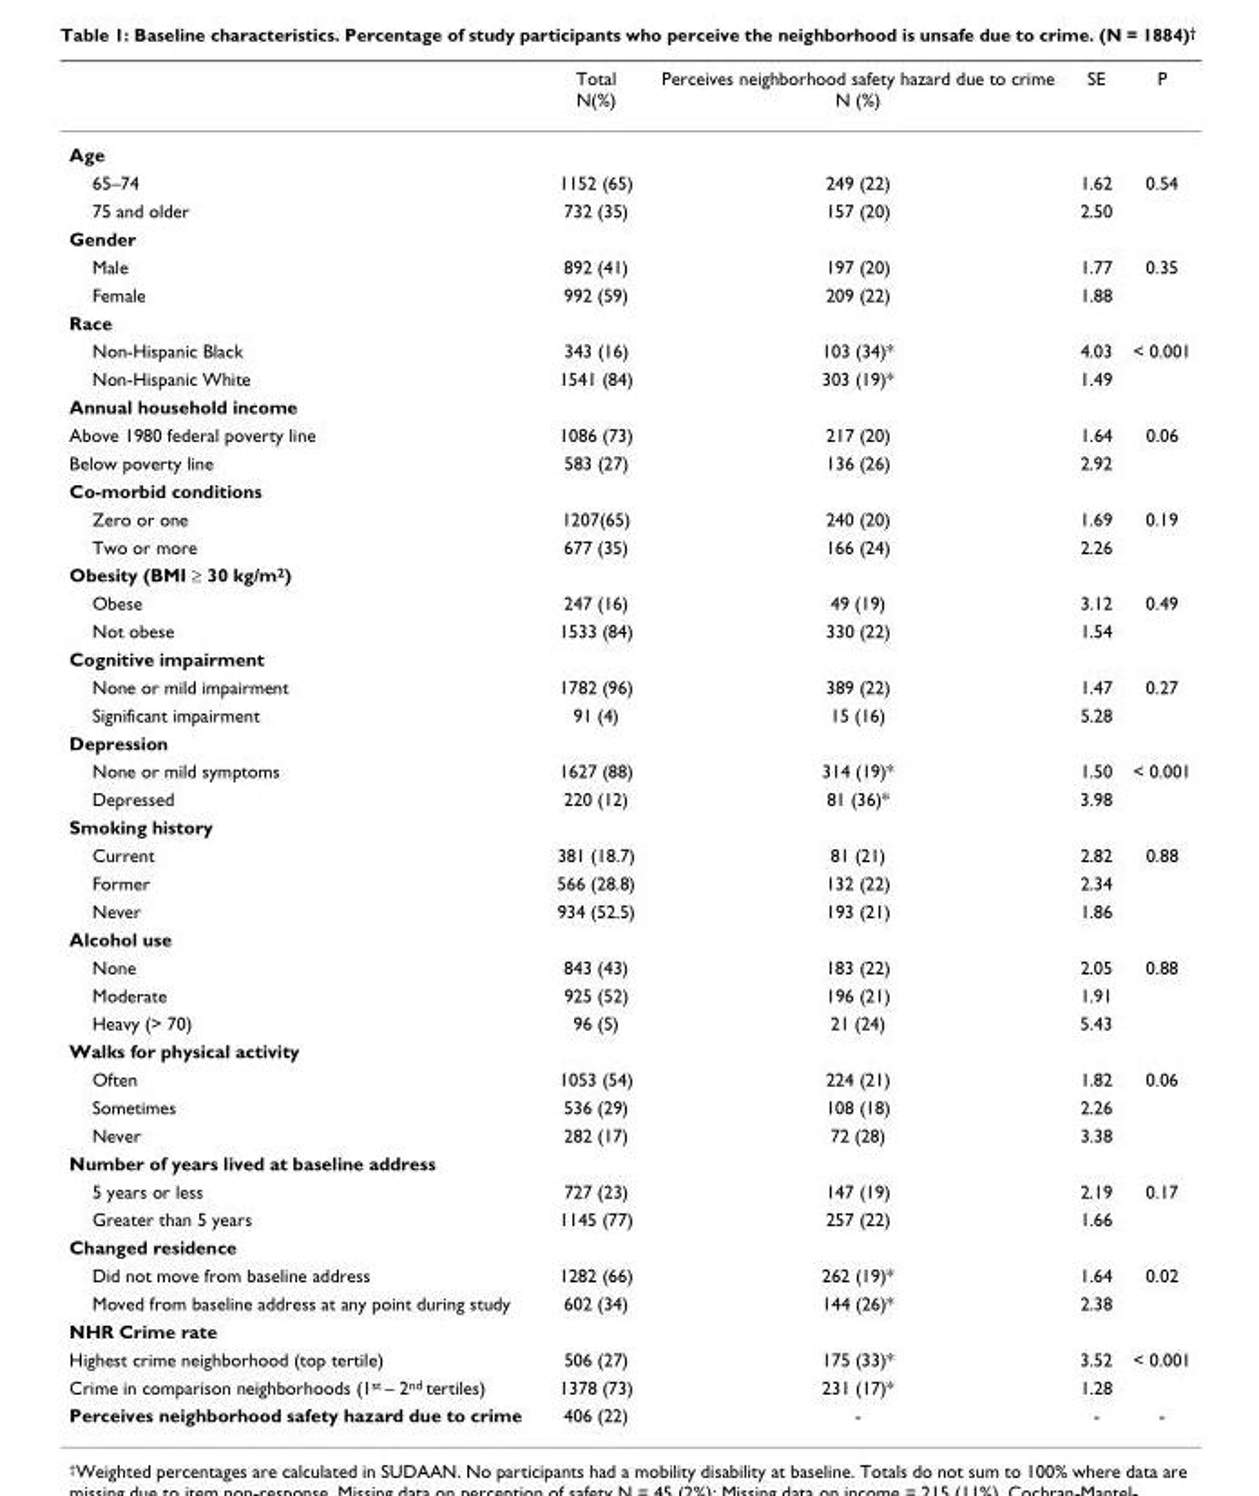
<table><thead><tr><td></td><td>Total N(%)</td><td>Perceives neighborhood safety hazard due to crime N (%)</td><td>SE</td><td>P</td></tr></thead><tbody><tr><td colspan="5">Age</td></tr><tr><td>65–74</td><td>1152 (65)</td><td>249 (22)</td><td>1.62</td><td>0.54</td></tr><tr><td>75 and older</td><td>732 (35)</td><td>157 (20)</td><td>2.50</td><td></td></tr><tr><td colspan="5">Gender</td></tr><tr><td>Male</td><td>892 (41)</td><td>197 (20)</td><td>1.77</td><td>0.35</td></tr><tr><td>Female</td><td>992 (59)</td><td>209 (22)</td><td>1.88</td><td></td></tr><tr><td colspan="5">Race</td></tr><tr><td>Non-Hispanic Black</td><td>343 (16)</td><td>103 (34)*</td><td>4.03</td><td>&lt; 0.001</td></tr><tr><td>Non-Hispanic White</td><td>1541 (84)</td><td>303 (19)*</td><td>1.49</td><td></td></tr><tr><td colspan="5">Annual household income</td></tr><tr><td>Above 1980 federal poverty line</td><td>1086 (73)</td><td>217 (20)</td><td>1.64</td><td>0.06</td></tr><tr><td>Below poverty line</td><td>583 (27)</td><td>136 (26)</td><td>2.92</td><td></td></tr><tr><td colspan="5">Co-morbid conditions</td></tr><tr><td>Zero or one</td><td>1207(65)</td><td>240 (20)</td><td>1.69</td><td>0.19</td></tr><tr><td>Two or more</td><td>677 (35)</td><td>166 (24)</td><td>2.26</td><td></td></tr><tr><td colspan="5">Obesity (BMI ≥ 30 kg/m<sup>2</sup>)</td></tr><tr><td>Obese</td><td>247 (16)</td><td>49 (19)</td><td>3.12</td><td>0.49</td></tr><tr><td>Not obese</td><td>1533 (84)</td><td>330 (22)</td><td>1.54</td><td></td></tr><tr><td colspan="5">Cognitive impairment</td></tr><tr><td>None or mild impairment</td><td>1782 (96)</td><td>389 (22)</td><td>1.47</td><td>0.27</td></tr><tr><td>Significant impairment</td><td>91 (4)</td><td>15 (16)</td><td>5.28</td><td></td></tr><tr><td colspan="5">Depression</td></tr><tr><td>None or mild symptoms</td><td>1627 (88)</td><td>314 (19)*</td><td>1.50</td><td>&lt; 0.001</td></tr><tr><td>Depressed</td><td>220 (12)</td><td>81 (36)*</td><td>3.98</td><td></td></tr><tr><td colspan="5">Smoking history</td></tr><tr><td>Current</td><td>381 (18.7)</td><td>81 (21)</td><td>2.82</td><td>0.88</td></tr><tr><td>Former</td><td>566 (28.8)</td><td>132 (22)</td><td>2.34</td><td></td></tr><tr><td>Never</td><td>934 (52.5)</td><td>193 (21)</td><td>1.86</td><td></td></tr><tr><td colspan="5">Alcohol use</td></tr><tr><td>None</td><td>843 (43)</td><td>183 (22)</td><td>2.05</td><td>0.88</td></tr><tr><td>Moderate</td><td>925 (52)</td><td>196 (21)</td><td>1.91</td><td></td></tr><tr><td>Heavy (&gt; 70)</td><td>96 (5)</td><td>21 (24)</td><td>5.43</td><td></td></tr><tr><td colspan="5">Walks for physical activity</td></tr><tr><td>Often</td><td>1053 (54)</td><td>224 (21)</td><td>1.82</td><td>0.06</td></tr><tr><td>Sometimes</td><td>536 (29)</td><td>108 (18)</td><td>2.26</td><td></td></tr><tr><td>Never</td><td>282 (17)</td><td>72 (28)</td><td>3.38</td><td></td></tr><tr><td colspan="5">Number of years lived at baseline address</td></tr><tr><td>5 years or less</td><td>727 (23)</td><td>147 (19)</td><td>2.19</td><td>0.17</td></tr><tr><td>Greater than 5 years</td><td>1145 (77)</td><td>257 (22)</td><td>1.66</td><td></td></tr><tr><td colspan="5">Changed residence</td></tr><tr><td>Did not move from baseline address</td><td>1282 (66)</td><td>262 (19)*</td><td>1.64</td><td>0.02</td></tr><tr><td>Moved from baseline address at any point during study</td><td>602 (34)</td><td>144 (26)*</td><td>2.38</td><td></td></tr><tr><td colspan="5">NHR Crime rate</td></tr><tr><td>Highest crime neighborhood (top tertile)</td><td>506 (27)</td><td>175 (33)*</td><td>3.52</td><td>&lt; 0.001</td></tr><tr><td>Crime in comparison neighborhoods (1<sup>st</sup> – 2<sup>nd</sup> tertiles)</td><td>1378 (73)</td><td>231 (17)*</td><td>1.28</td><td></td></tr><tr><td>Perceives neighborhood safety hazard due to crime</td><td>406 (22)</td><td>-</td><td>-</td><td>-</td></tr></tbody></table>